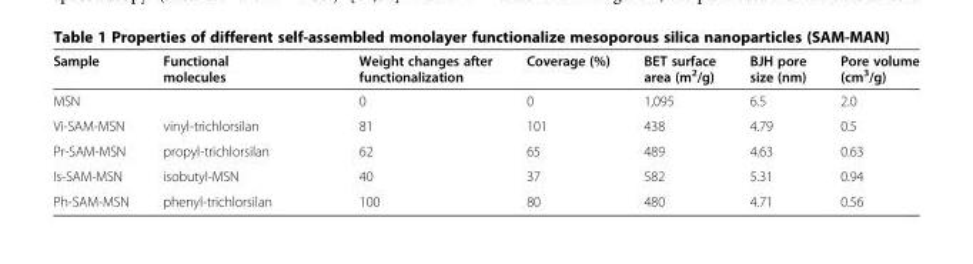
<table><thead><tr><td>Sample</td><td>Functional molecules</td><td>Weight changes after functionalization</td><td>Coverage (%)</td><td>BET surface area (m<sup>2</sup>/g)</td><td>BJH pore size (nm)</td><td>Pore volume (cm<sup>3</sup>/g)</td></tr></thead><tbody><tr><td>MSN</td><td></td><td>0</td><td>0</td><td>1,095</td><td>6.5</td><td>2.0</td></tr><tr><td>Vi-SAM-MSN</td><td>vinyl-trichlorsilan</td><td>81</td><td>101</td><td>438</td><td>4.79</td><td>0.5</td></tr><tr><td>Pr-SAM-MSN</td><td>propyl-trichlorsilan</td><td>62</td><td>65</td><td>489</td><td>4.63</td><td>0.63</td></tr><tr><td>Is-SAM-MSN</td><td>isobutyl-MSN</td><td>40</td><td>37</td><td>582</td><td>5.31</td><td>0.94</td></tr><tr><td>Ph-SAM-MSN</td><td>phenyl-trichlorsilan</td><td>100</td><td>80</td><td>480</td><td>4.71</td><td>0.56</td></tr></tbody></table>